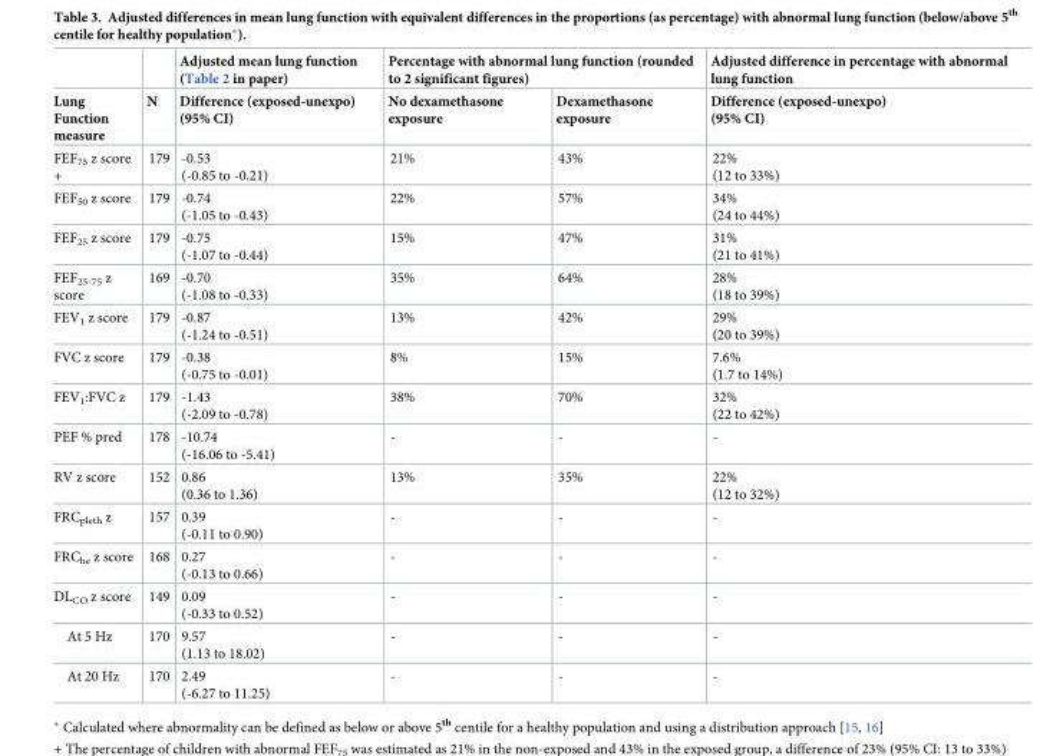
<table><thead><tr><td rowspan="2">Lung Function measure</td><td rowspan="2">N</td><td rowspan="2">Adjusted mean lung function (Table 2 in paper) Difference (exposed-unexpo) (95% CI)</td><td colspan="2">Percentage with abnormal lung function (rounded to 2 significant figures)</td><td rowspan="2">Adjusted difference in percentage with abnormal lung function Difference (exposed-unexpo) (95% CI)</td></tr><tr><td>No dexamethasone exposure</td><td>Dexamethasone exposure</td></tr></thead><tbody><tr><td>FEF<sub>75</sub> z score +</td><td>179</td><td>-0.53 (-0.85 to -0.21)</td><td>21%</td><td>43%</td><td>22% (12 to 33%)</td></tr><tr><td>FEF<sub>50</sub> z score</td><td>179</td><td>-0.74 (-1.05 to -0.43)</td><td>22%</td><td>57%</td><td>34% (24 to 44%)</td></tr><tr><td>FEF<sub>25</sub> z score</td><td>179</td><td>-0.75 (-1.07 to -0.44)</td><td>15%</td><td>47%</td><td>31% (21 to 41%)</td></tr><tr><td>FEF<sub>25-75</sub> z score</td><td>169</td><td>-0.70 (-1.08 to -0.33)</td><td>35%</td><td>64%</td><td>28% (18 to 39%)</td></tr><tr><td>FEV<sub>1</sub> z score</td><td>179</td><td>-0.87 (-1.24 to -0.51)</td><td>13%</td><td>42%</td><td>29% (20 to 39%)</td></tr><tr><td>FVC z score</td><td>179</td><td>-0.38 (-0.75 to -0.01)</td><td>8%</td><td>15%</td><td>7.6% (1.7 to 14%)</td></tr><tr><td>FEV<sub>1</sub>:FVC z</td><td>179</td><td>-1.43 (-2.09 to -0.78)</td><td>38%</td><td>70%</td><td>32% (22 to 42%)</td></tr><tr><td>PEF % pred</td><td>178</td><td>-10.74 (-16.06 to -5.41)</td><td>-</td><td>-</td><td>-</td></tr><tr><td>RV z score</td><td>152</td><td>0.86 (0.36 to 1.36)</td><td>13%</td><td>35%</td><td>22% (12 to 32%)</td></tr><tr><td>FRC<sub>pleth</sub> z</td><td>157</td><td>0.39 (-0.11 to 0.90)</td><td>-</td><td>-</td><td>-</td></tr><tr><td>FRC<sub>he</sub> z score</td><td>168</td><td>0.27 (-0.13 to 0.66)</td><td>-</td><td>-</td><td>-</td></tr><tr><td>DL<sub>CO</sub> z score</td><td>149</td><td>0.09 (-0.33 to 0.52)</td><td>-</td><td>-</td><td>-</td></tr><tr><td>At 5 Hz</td><td>170</td><td>9.57 (1.13 to 18.02)</td><td>-</td><td>-</td><td>-</td></tr><tr><td>At 20 Hz</td><td>170</td><td>2.49 (-6.27 to 11.25)</td><td>-</td><td>-</td><td>-</td></tr></tbody></table>